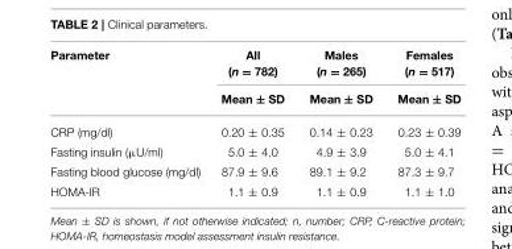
<table><thead><tr><td rowspan="2">Parameter</td><td rowspan="2">All (n = 782) Mean ± SD</td><td rowspan="2">Males (n = 265) Mean ± SD</td><td rowspan="2">Females (n = 517) Mean ± SD</td></tr><tr></tr></thead><tbody><tr><td>CRP (mg/dl)</td><td>0.20 ± 0.35</td><td>0.14 ± 0.23</td><td>0.23 ± 0.39</td></tr><tr><td>Fasting insulin (µU/ml)</td><td>5.0 ± 4.0</td><td>4.9 ± 3.9</td><td>5.0 ± 4.1</td></tr><tr><td>Fasting blood glucose (mg/dl)</td><td>87.9 ± 9.6</td><td>89.1 ± 9.2</td><td>87.3 ± 9.7</td></tr><tr><td>HOMA-IR</td><td>1.1 ± 0.9</td><td>1.1 ± 0.9</td><td>1.1 ± 1.0</td></tr></tbody></table>